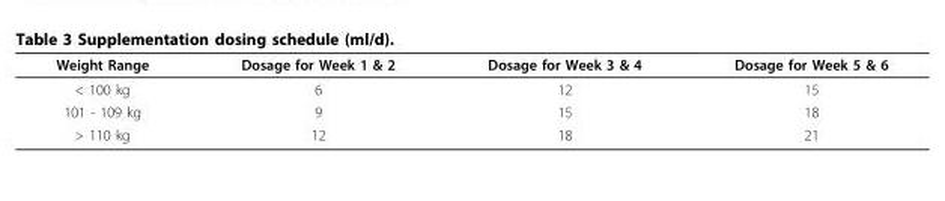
<table><thead><tr><td>Weight Range</td><td>Dosage for Week 1 &amp; 2</td><td>Dosage for Week 3 &amp; 4</td><td>Dosage for Week 5 &amp; 6</td></tr></thead><tbody><tr><td>&lt; 100 kg</td><td>6</td><td>12</td><td>15</td></tr><tr><td>101 - 109 kg</td><td>9</td><td>15</td><td>18</td></tr><tr><td>&gt; 110 kg</td><td>12</td><td>18</td><td>21</td></tr></tbody></table>